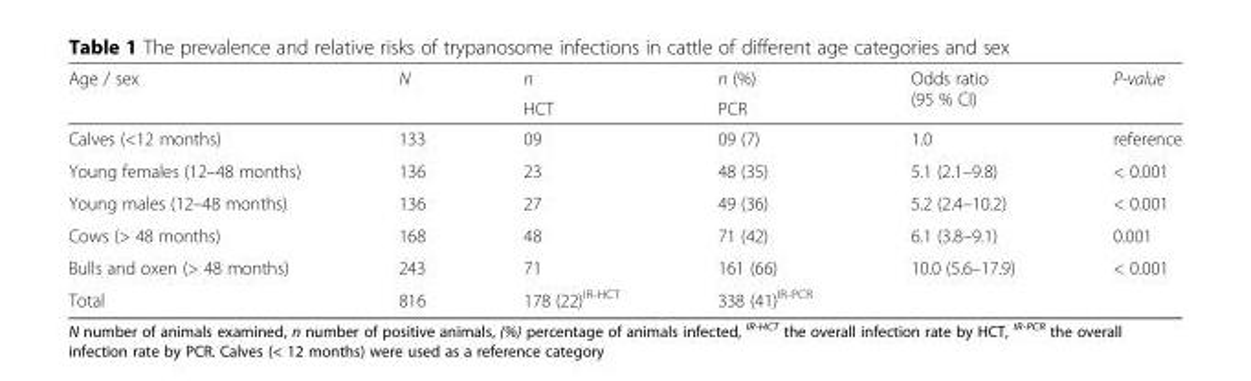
<table><thead><tr><td rowspan="2">Age / sex</td><td rowspan="2">N</td><td rowspan="2">n HCT</td><td rowspan="2">n (%) PCR</td><td rowspan="2">Odds ratio (95 % CI)</td><td rowspan="2">P-value</td></tr><tr></tr></thead><tbody><tr><td>Calves (&lt;12 months)</td><td>133</td><td>09</td><td>09 (7)</td><td>1.0</td><td>reference</td></tr><tr><td>Young females (12–48 months)</td><td>136</td><td>23</td><td>48 (35)</td><td>5.1 (2.1–9.8)</td><td>&lt; 0.001</td></tr><tr><td>Young males (12–48 months)</td><td>136</td><td>27</td><td>49 (36)</td><td>5.2 (2.4–10.2)</td><td>&lt; 0.001</td></tr><tr><td>Cows (&gt; 48 months)</td><td>168</td><td>48</td><td>71 (42)</td><td>6.1 (3.8–9.1)</td><td>0.001</td></tr><tr><td>Bulls and oxen (&gt; 48 months)</td><td>243</td><td>71</td><td>161 (66)</td><td>10.0 (5.6–17.9)</td><td>&lt; 0.001</td></tr><tr><td>Total</td><td>816</td><td>178 (22)<sup>IR-HCT</sup></td><td>338 (41)<sup>IR-PCR</sup></td><td></td><td></td></tr></tbody></table>